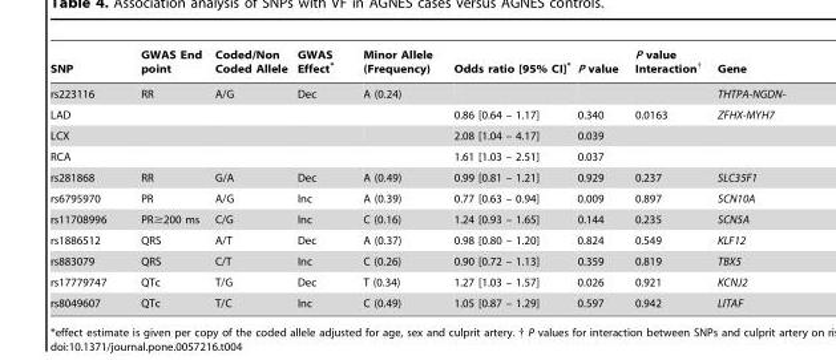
<table><thead><tr><td>SNP</td><td>GWAS End point</td><td>Coded/Non Coded Allele</td><td>GWAS Effect*</td><td>Minor Allele (Frequency)</td><td>Odds ratio [95% CI]*</td><td>P value</td><td>P value Interaction<sup>†</sup></td><td>Gene</td></tr></thead><tbody><tr><td>rs223116</td><td>RR</td><td>A/G</td><td>Dec</td><td>A (0.24)</td><td></td><td></td><td></td><td>THTPA-NGDN-</td></tr><tr><td>LAD</td><td></td><td></td><td></td><td></td><td>0.86 [0.64 – 1.17]</td><td>0.340</td><td>0.0163</td><td>ZFHX-MYH7</td></tr><tr><td>LCX</td><td></td><td></td><td></td><td></td><td>2.08 [1.04 – 4.17]</td><td>0.039</td><td></td><td></td></tr><tr><td>RCA</td><td></td><td></td><td></td><td></td><td>1.61 [1.03 – 2.51]</td><td>0.037</td><td></td><td></td></tr><tr><td>rs281868</td><td>RR</td><td>G/A</td><td>Dec</td><td>A (0.49)</td><td>0.99 [0.81 – 1.21]</td><td>0.929</td><td>0.237</td><td>SLC35F1</td></tr><tr><td>rs6795970</td><td>PR</td><td>A/G</td><td>Inc</td><td>A (0.39)</td><td>0.77 [0.63 – 0.94]</td><td>0.009</td><td>0.897</td><td>SCN10A</td></tr><tr><td>rs11708996</td><td>PR≥200 ms</td><td>C/G</td><td>Inc</td><td>C (0.16)</td><td>1.24 [0.93 – 1.65]</td><td>0.144</td><td>0.235</td><td>SCN5A</td></tr><tr><td>rs1886512</td><td>QRS</td><td>A/T</td><td>Dec</td><td>A (0.37)</td><td>0.98 [0.80 – 1.20]</td><td>0.824</td><td>0.549</td><td>KLF12</td></tr><tr><td>rs883079</td><td>QRS</td><td>C/T</td><td>Inc</td><td>C (0.26)</td><td>0.90 [0.72 – 1.13]</td><td>0.359</td><td>0.819</td><td>TBX5</td></tr><tr><td>rs17779747</td><td>QTc</td><td>T/G</td><td>Dec</td><td>T (0.34)</td><td>1.27 [1.03 – 1.57]</td><td>0.026</td><td>0.921</td><td>KCNJ2</td></tr><tr><td>rs8049607</td><td>QTc</td><td>T/C</td><td>Inc</td><td>C (0.49)</td><td>1.05 [0.87 – 1.29]</td><td>0.597</td><td>0.942</td><td>LITAF</td></tr></tbody></table>